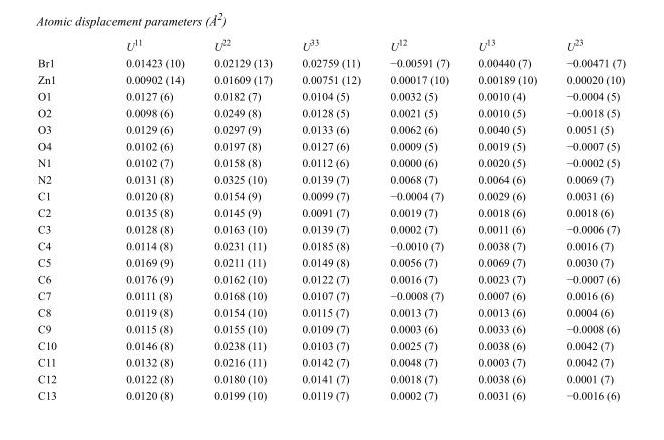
<table><thead><tr><td></td><td>U<sup>11</sup></td><td>U<sup>22</sup></td><td>U<sup>33</sup></td><td>U<sup>12</sup></td><td>U<sup>13</sup></td><td>U<sup>23</sup></td></tr></thead><tbody><tr><td>Br1</td><td>0.01423 (10)</td><td>0.02129 (13)</td><td>0.02759 (11)</td><td>−0.00591 (7)</td><td>0.00440 (7)</td><td>−0.00471 (7)</td></tr><tr><td>Zn1</td><td>0.00902 (14)</td><td>0.01609 (17)</td><td>0.00751 (12)</td><td>0.00017 (10)</td><td>0.00189 (10)</td><td>0.00020 (10)</td></tr><tr><td>O1</td><td>0.0127 (6)</td><td>0.0182 (7)</td><td>0.0104 (5)</td><td>0.0032 (5)</td><td>0.0010 (4)</td><td>−0.0004 (5)</td></tr><tr><td>O2</td><td>0.0098 (6)</td><td>0.0249 (8)</td><td>0.0128 (5)</td><td>0.0021 (5)</td><td>0.0010 (5)</td><td>−0.0018 (5)</td></tr><tr><td>O3</td><td>0.0129 (6)</td><td>0.0297 (9)</td><td>0.0133 (6)</td><td>0.0062 (6)</td><td>0.0040 (5)</td><td>0.0051 (5)</td></tr><tr><td>O4</td><td>0.0102 (6)</td><td>0.0197 (8)</td><td>0.0127 (6)</td><td>0.0009 (5)</td><td>0.0019 (5)</td><td>−0.0007 (5)</td></tr><tr><td>N1</td><td>0.0102 (7)</td><td>0.0158 (8)</td><td>0.0112 (6)</td><td>0.0000 (6)</td><td>0.0020 (5)</td><td>−0.0002 (5)</td></tr><tr><td>N2</td><td>0.0131 (8)</td><td>0.0325 (10)</td><td>0.0139 (7)</td><td>0.0068 (7)</td><td>0.0064 (6)</td><td>0.0069 (7)</td></tr><tr><td>C1</td><td>0.0120 (8)</td><td>0.0154 (9)</td><td>0.0099 (7)</td><td>−0.0004 (7)</td><td>0.0029 (6)</td><td>0.0031 (6)</td></tr><tr><td>C2</td><td>0.0135 (8)</td><td>0.0145 (9)</td><td>0.0091 (7)</td><td>0.0019 (7)</td><td>0.0018 (6)</td><td>0.0018 (6)</td></tr><tr><td>C3</td><td>0.0128 (8)</td><td>0.0163 (10)</td><td>0.0139 (7)</td><td>0.0002 (7)</td><td>0.0011 (6)</td><td>−0.0006 (7)</td></tr><tr><td>C4</td><td>0.0114 (8)</td><td>0.0231 (11)</td><td>0.0185 (8)</td><td>−0.0010 (7)</td><td>0.0038 (7)</td><td>0.0016 (7)</td></tr><tr><td>C5</td><td>0.0169 (9)</td><td>0.0211 (11)</td><td>0.0149 (8)</td><td>0.0056 (7)</td><td>0.0069 (7)</td><td>0.0030 (7)</td></tr><tr><td>C6</td><td>0.0176 (9)</td><td>0.0162 (10)</td><td>0.0122 (7)</td><td>0.0016 (7)</td><td>0.0023 (7)</td><td>−0.0007 (6)</td></tr><tr><td>C7</td><td>0.0111 (8)</td><td>0.0168 (10)</td><td>0.0107 (7)</td><td>−0.0008 (7)</td><td>0.0007 (6)</td><td>0.0016 (6)</td></tr><tr><td>C8</td><td>0.0119 (8)</td><td>0.0154 (10)</td><td>0.0115 (7)</td><td>0.0013 (7)</td><td>0.0013 (6)</td><td>0.0004 (6)</td></tr><tr><td>C9</td><td>0.0115 (8)</td><td>0.0155 (10)</td><td>0.0109 (7)</td><td>0.0003 (6)</td><td>0.0033 (6)</td><td>−0.0008 (6)</td></tr><tr><td>C10</td><td>0.0146 (8)</td><td>0.0238 (11)</td><td>0.0103 (7)</td><td>0.0025 (7)</td><td>0.0038 (6)</td><td>0.0042 (7)</td></tr><tr><td>C11</td><td>0.0132 (8)</td><td>0.0216 (11)</td><td>0.0142 (7)</td><td>0.0048 (7)</td><td>0.0003 (7)</td><td>0.0042 (7)</td></tr><tr><td>C12</td><td>0.0122 (8)</td><td>0.0180 (10)</td><td>0.0141 (7)</td><td>0.0018 (7)</td><td>0.0038 (6)</td><td>0.0001 (7)</td></tr><tr><td>C13</td><td>0.0120 (8)</td><td>0.0199 (10)</td><td>0.0119 (7)</td><td>0.0002 (7)</td><td>0.0031 (6)</td><td>−0.0016 (6)</td></tr></tbody></table>